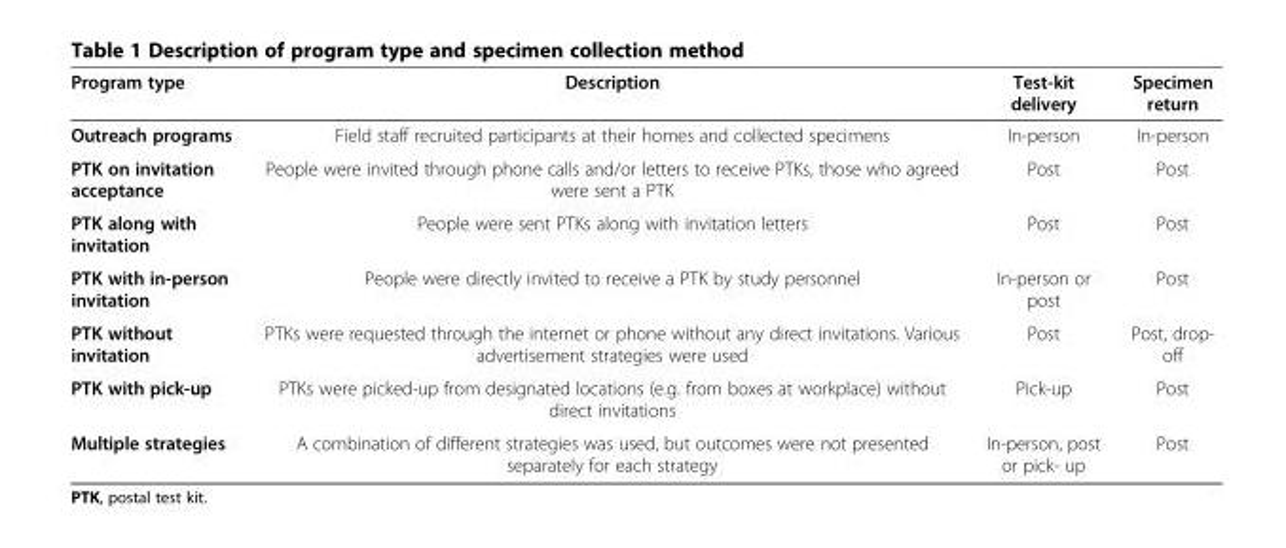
<table><thead><tr><td>Program type</td><td>Description</td><td>Test-kit delivery</td><td>Specimen return</td></tr></thead><tbody><tr><td>Outreach programs</td><td>Field staff recruited participants at their homes and collected specimens</td><td>In-person</td><td>In-person</td></tr><tr><td>PTK on invitation acceptance</td><td>People were invited through phone calls and/or letters to receive PTKs, those who agreed were sent a PTK</td><td>Post</td><td>Post</td></tr><tr><td>PTK along with invitation</td><td>People were sent PTKs along with invitation letters</td><td>Post</td><td>Post</td></tr><tr><td>PTK with in-person invitation</td><td>People were directly invited to receive a PTK by study personnel</td><td>In-person or post</td><td>Post</td></tr><tr><td>PTK without invitation</td><td>PTKs were requested through the internet or phone without any direct invitations. Various advertisement strategies were used</td><td>Post</td><td>Post, drop- off</td></tr><tr><td>PTK with pick-up</td><td>PTKs were picked-up from designated locations (e.g. from boxes at workplace) without direct invitations</td><td>Pick-up</td><td>Post</td></tr><tr><td>Multiple strategies</td><td>A combination of different strategies was used, but outcomes were not presented separately for each strategy</td><td>In-person, post or pick- up</td><td>Post</td></tr></tbody></table>